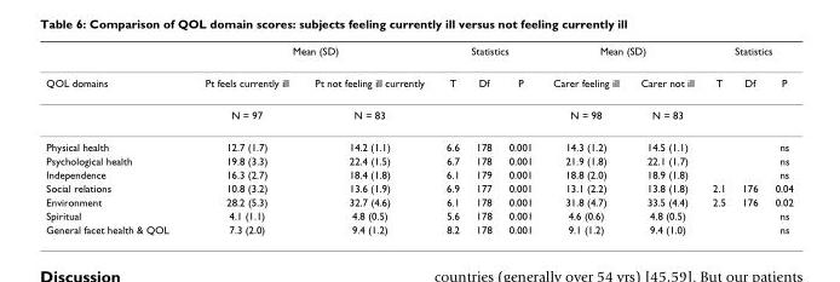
<table><thead><tr><td rowspan="2">QOL domains</td><td colspan="2">Mean (SD)</td><td colspan="3">Statistics</td><td colspan="2">Mean (SD)</td><td colspan="3">Statistics</td></tr><tr><td>Pt feels currently ill</td><td>Pt not feeling ill currently</td><td>T</td><td>Df</td><td>P</td><td>Carer feeling ill</td><td>Carer not ill</td><td>T</td><td>Df</td><td>P</td></tr></thead><tbody><tr><td></td><td>N = 97</td><td>N = 83</td><td></td><td></td><td></td><td>N = 98</td><td>N = 83</td><td></td><td></td><td></td></tr><tr><td>Physical health</td><td>12.7 (1.7)</td><td>14.2 (1.1)</td><td>6.6</td><td>178</td><td>0.001</td><td>14.3 (1.2)</td><td>14.5 (1.1)</td><td></td><td></td><td>ns</td></tr><tr><td>Psychological health</td><td>19.8 (3.3)</td><td>22.4 (1.5)</td><td>6.7</td><td>178</td><td>0.001</td><td>21.9 (1.8)</td><td>22.1 (1.7)</td><td></td><td></td><td>ns</td></tr><tr><td>Independence</td><td>16.3 (2.7)</td><td>18.4 (1.8)</td><td>6.1</td><td>179</td><td>0.001</td><td>18.8 (2.0)</td><td>18.9 (1.8)</td><td></td><td></td><td>ns</td></tr><tr><td>Social relations</td><td>10.8 (3.2)</td><td>13.6 (1.9)</td><td>6.9</td><td>177</td><td>0.001</td><td>13.1 (2.2)</td><td>13.8 (1.8)</td><td>2.1</td><td>176</td><td>0.04</td></tr><tr><td>Environment</td><td>28.2 (5.3)</td><td>32.7 (4.6)</td><td>6.1</td><td>178</td><td>0.001</td><td>31.8 (4.7)</td><td>33.5 (4.4)</td><td>2.5</td><td>176</td><td>0.02</td></tr><tr><td>Spiritual</td><td>4.1 (1.1)</td><td>4.8 (0.5)</td><td>5.6</td><td>178</td><td>0.001</td><td>4.6 (0.6)</td><td>4.8 (0.5)</td><td></td><td></td><td>ns</td></tr><tr><td>General facet health &amp; QOL</td><td>7.3 (2.0)</td><td>9.4 (1.2)</td><td>8.2</td><td>178</td><td>0.001</td><td>9.1 (1.2)</td><td>9.4 (1.0)</td><td></td><td></td><td>ns</td></tr></tbody></table>